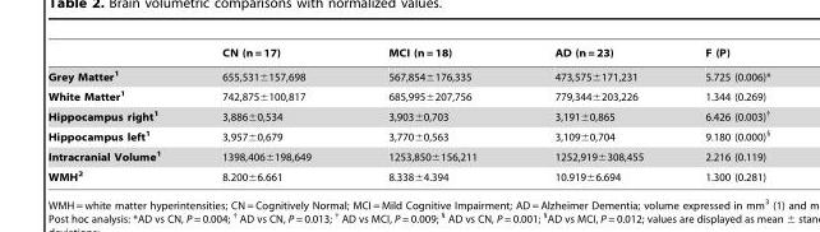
<table><thead><tr><td></td><td>CN (n = 17)</td><td>MCI (n = 18)</td><td>AD (n = 23)</td><td>F (P)</td></tr></thead><tbody><tr><td>Grey Matter<sup>1</sup></td><td>655,531±157,698</td><td>567,854±176,335</td><td>473,575±171,231</td><td>5.725 (0.006)*</td></tr><tr><td>White Matter<sup>1</sup></td><td>742,875±100,817</td><td>685,995±207,756</td><td>779,344±203,226</td><td>1.344 (0.269)</td></tr><tr><td>Hippocampus right<sup>1</sup></td><td>3,886±0,534</td><td>3,903±0,703</td><td>3,191±0,865</td><td>6.426 (0.003)<sup>†</sup></td></tr><tr><td>Hippocampus left<sup>1</sup></td><td>3,957±0,679</td><td>3,770±0,563</td><td>3,109±0,704</td><td>9.180 (0.000)<sup>§</sup></td></tr><tr><td>Intracranial Volume<sup>1</sup></td><td>1398,406±198,649</td><td>1253,850±156,211</td><td>1252,919±308,455</td><td>2.216 (0.119)</td></tr><tr><td>WMH<sup>2</sup></td><td>8.200±6.661</td><td>8.338±4.394</td><td>10.919±6.694</td><td>1.300 (0.281)</td></tr></tbody></table>